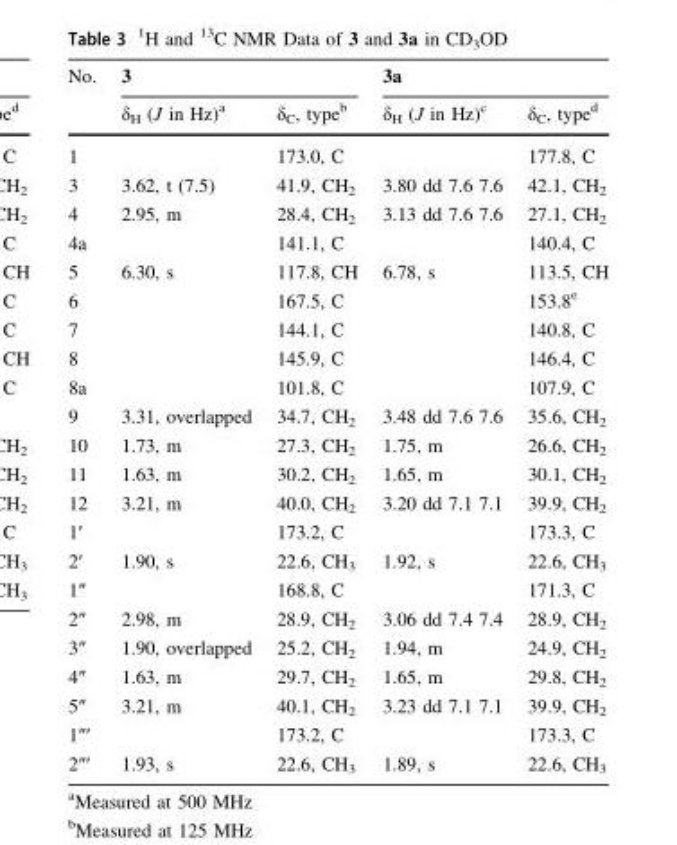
<table><thead><tr><td rowspan="2">No.</td><td colspan="2">3</td><td colspan="2">3a</td></tr><tr><td>δ<sub>H</sub> (J in Hz)<sup>a</sup></td><td>δ<sub>C</sub>, type<sup>b</sup></td><td>δ<sub>H</sub> (J in Hz)<sup>c</sup></td><td>δ<sub>C</sub>, type<sup>d</sup></td></tr></thead><tbody><tr><td>1</td><td></td><td>173.0, C</td><td></td><td>177.8, C</td></tr><tr><td>3</td><td>3.62, t (7.5)</td><td>41.9, CH<sub>2</sub></td><td>3.80 dd 7.6 7.6</td><td>42.1, CH<sub>2</sub></td></tr><tr><td>4</td><td>2.95, m</td><td>28.4, CH<sub>2</sub></td><td>3.13 dd 7.6 7.6</td><td>27.1, CH<sub>2</sub></td></tr><tr><td>4a</td><td></td><td>141.1, C</td><td></td><td>140.4, C</td></tr><tr><td>5</td><td>6.30, s</td><td>117.8, CH</td><td>6.78, s</td><td>113.5, CH</td></tr><tr><td>6</td><td></td><td>167.5, C</td><td></td><td>153.8<sup>e</sup></td></tr><tr><td>7</td><td></td><td>144.1, C</td><td></td><td>140.8, C</td></tr><tr><td>8</td><td></td><td>145.9, C</td><td></td><td>146.4, C</td></tr><tr><td>8a</td><td></td><td>101.8, C</td><td></td><td>107.9, C</td></tr><tr><td>9</td><td>3.31, overlapped</td><td>34.7, CH<sub>2</sub></td><td>3.48 dd 7.6 7.6</td><td>35.6, CH<sub>2</sub></td></tr><tr><td>10</td><td>1.73, m</td><td>27.3, CH<sub>2</sub></td><td>1.75, m</td><td>26.6, CH<sub>2</sub></td></tr><tr><td>11</td><td>1.63, m</td><td>30.2, CH<sub>2</sub></td><td>1.65, m</td><td>30.1, CH<sub>2</sub></td></tr><tr><td>12</td><td>3.21, m</td><td>40.0, CH<sub>2</sub></td><td>3.20 dd 7.1 7.1</td><td>39.9, CH<sub>2</sub></td></tr><tr><td>1′</td><td></td><td>173.2, C</td><td></td><td>173.3, C</td></tr><tr><td>2′</td><td>1.90, s</td><td>22.6, CH<sub>3</sub></td><td>1.92, s</td><td>22.6, CH<sub>3</sub></td></tr><tr><td>1″</td><td></td><td>168.8, C</td><td></td><td>171.3, C</td></tr><tr><td>2″</td><td>2.98, m</td><td>28.9, CH<sub>2</sub></td><td>3.06 dd 7.4 7.4</td><td>28.9, CH<sub>2</sub></td></tr><tr><td>3″</td><td>1.90, overlapped</td><td>25.2, CH<sub>2</sub></td><td>1.94, m</td><td>24.9, CH<sub>2</sub></td></tr><tr><td>4″</td><td>1.63, m</td><td>29.7, CH<sub>2</sub></td><td>1.65, m</td><td>29.8, CH<sub>2</sub></td></tr><tr><td>5″</td><td>3.21, m</td><td>40.1, CH<sub>2</sub></td><td>3.23 dd 7.1 7.1</td><td>39.9, CH<sub>2</sub></td></tr><tr><td>1″′</td><td></td><td>173.2, C</td><td></td><td>173.3, C</td></tr><tr><td>2″′</td><td>1.93, s</td><td>22.6, CH<sub>3</sub></td><td>1.89, s</td><td>22.6, CH<sub>3</sub></td></tr></tbody></table>